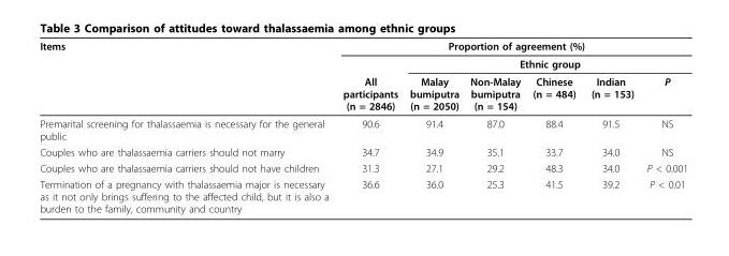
<table><thead><tr><td rowspan="3">Items</td><td colspan="6">Proportion of agreement (%)</td></tr><tr><td rowspan="2">All participants (n = 2846)</td><td colspan="5">Ethnic group</td></tr><tr><td>Malay bumiputra (n = 2050)</td><td>Non-Malay bumiputra (n = 154)</td><td>Chinese (n = 484)</td><td>Indian (n = 153)</td><td>P</td></tr></thead><tbody><tr><td>Premarital screening for thalassaemia is necessary for the general public</td><td>90.6</td><td>91.4</td><td>87.0</td><td>88.4</td><td>91.5</td><td>NS</td></tr><tr><td>Couples who are thalassaemia carriers should not marry</td><td>34.7</td><td>34.9</td><td>35.1</td><td>33.7</td><td>34.0</td><td>NS</td></tr><tr><td>Couples who are thalassaemia carriers should not have children</td><td>31.3</td><td>27.1</td><td>29.2</td><td>48.3</td><td>34.0</td><td>P &lt; 0.001</td></tr><tr><td>Termination of a pregnancy with thalassaemia major is necessary as it not only brings suffering to the affected child, but it is also a burden to the family, community and country</td><td>36.6</td><td>36.0</td><td>25.3</td><td>41.5</td><td>39.2</td><td>P &lt; 0.01</td></tr></tbody></table>